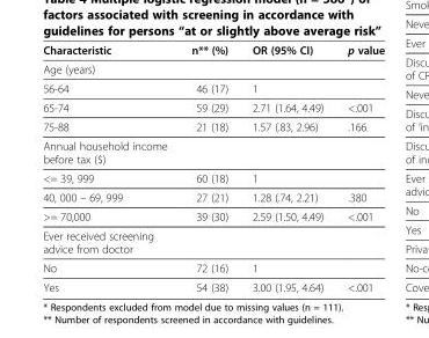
<table><thead><tr><td>Characteristic</td><td>n** (%)</td><td>OR (95% CI)</td><td>p value</td></tr></thead><tbody><tr><td colspan="4">Age (years)</td></tr><tr><td>56-64</td><td>46 (17)</td><td>1</td><td></td></tr><tr><td>65-74</td><td>59 (29)</td><td>2.71 (1.64, 4.49)</td><td>&lt;.001</td></tr><tr><td>75-88</td><td>21 (18)</td><td>1.57 (.83, 2.96)</td><td>.166</td></tr><tr><td colspan="4">Annual household income before tax ($)</td></tr><tr><td>&lt;= 39, 999</td><td>60 (18)</td><td>1</td><td></td></tr><tr><td>40, 000 – 69, 999</td><td>27 (21)</td><td>1.28 (.74, 2.21)</td><td>.380</td></tr><tr><td>&gt;= 70,000</td><td>39 (30)</td><td>2.59 (1.50, 4.49)</td><td>&lt;.001</td></tr><tr><td colspan="4">Ever received screening advice from doctor</td></tr><tr><td>No</td><td>72 (16)</td><td>1</td><td></td></tr><tr><td>Yes</td><td>54 (38)</td><td>3.00 (1.95, 4.64)</td><td>&lt;.001</td></tr></tbody></table>